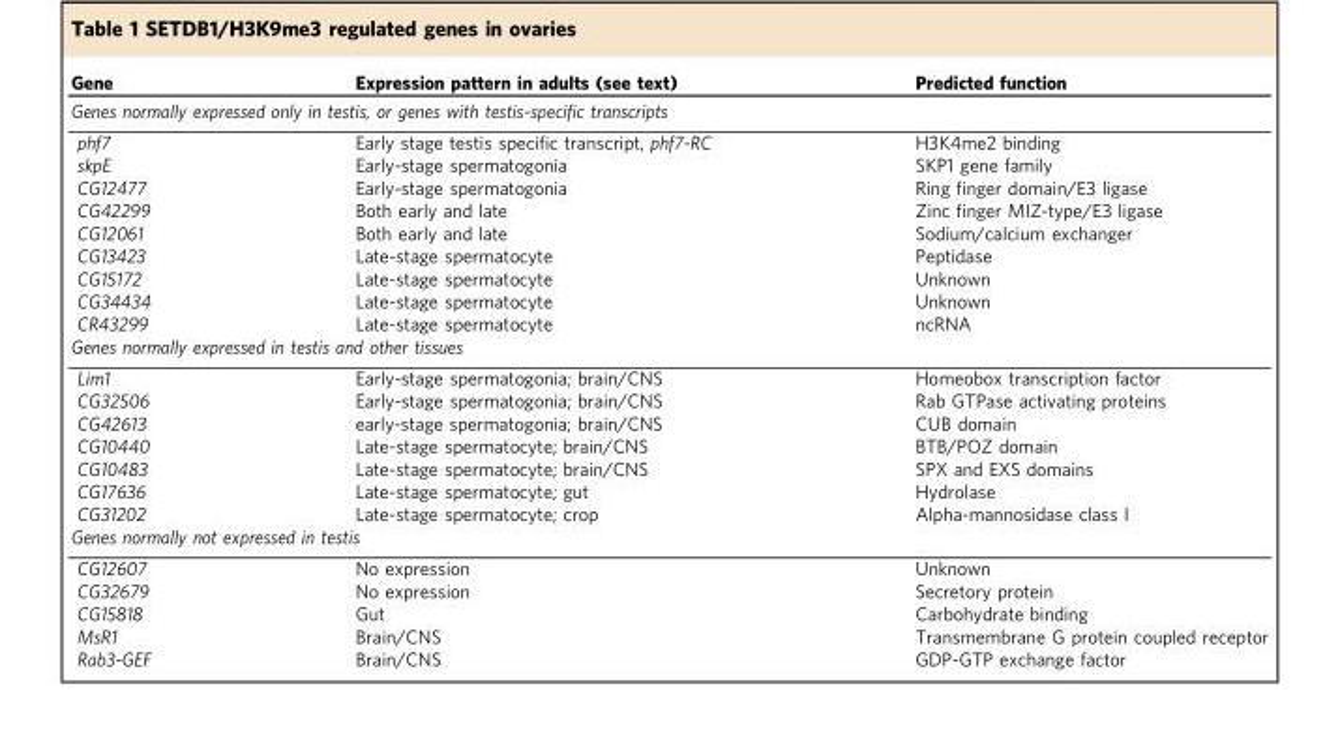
<table><thead><tr><td>Gene</td><td>Expression pattern in adults (see text)</td><td>Predicted function</td></tr></thead><tbody><tr><td colspan="3">Genes normally expressed only in testis, or genes with testis-specific transcripts</td></tr><tr><td>phf7</td><td>Early stage testis specific transcript, phf7-RC</td><td>H3K4me2 binding</td></tr><tr><td>skpE</td><td>Early-stage spermatogonia</td><td>SKP1 gene family</td></tr><tr><td>CG12477</td><td>Early-stage spermatogonia</td><td>Ring finger domain/E3 ligase</td></tr><tr><td>CG42299</td><td>Both early and late</td><td>Zinc finger MIZ-type/E3 ligase</td></tr><tr><td>CG12061</td><td>Both early and late</td><td>Sodium/calcium exchanger</td></tr><tr><td>CG13423</td><td>Late-stage spermatocyte</td><td>Peptidase</td></tr><tr><td>CG15172</td><td>Late-stage spermatocyte</td><td>Unknown</td></tr><tr><td>CG34434</td><td>Late-stage spermatocyte</td><td>Unknown</td></tr><tr><td>CR43299</td><td>Late-stage spermatocyte</td><td>ncRNA</td></tr><tr><td colspan="3">Genes normally expressed in testis and other tissues</td></tr><tr><td>Lim1</td><td>Early-stage spermatogonia; brain/CNS</td><td>Homeobox transcription factor</td></tr><tr><td>CG32506</td><td>Early-stage spermatogonia; brain/CNS</td><td>Rab GTPase activating proteins</td></tr><tr><td>CG42613</td><td>early-stage spermatogonia; brain/CNS</td><td>CUB domain</td></tr><tr><td>CG10440</td><td>Late-stage spermatocyte; brain/CNS</td><td>BTB/POZ domain</td></tr><tr><td>CG10483</td><td>Late-stage spermatocyte; brain/CNS</td><td>SPX and EXS domains</td></tr><tr><td>CG17636</td><td>Late-stage spermatocyte; gut</td><td>Hydrolase</td></tr><tr><td>CG31202</td><td>Late-stage spermatocyte; crop</td><td>Alpha-mannosidase class I</td></tr><tr><td colspan="3">Genes normally not expressed in testis</td></tr><tr><td>CG12607</td><td>No expression</td><td>Unknown</td></tr><tr><td>CG32679</td><td>No expression</td><td>Secretory protein</td></tr><tr><td>CG15818</td><td>Gut</td><td>Carbohydrate binding</td></tr><tr><td>MsR1</td><td>Brain/CNS</td><td>Transmembrane G protein coupled receptor</td></tr><tr><td>Rab3-GEF</td><td>Brain/CNS</td><td>GDP-GTP exchange factor</td></tr></tbody></table>